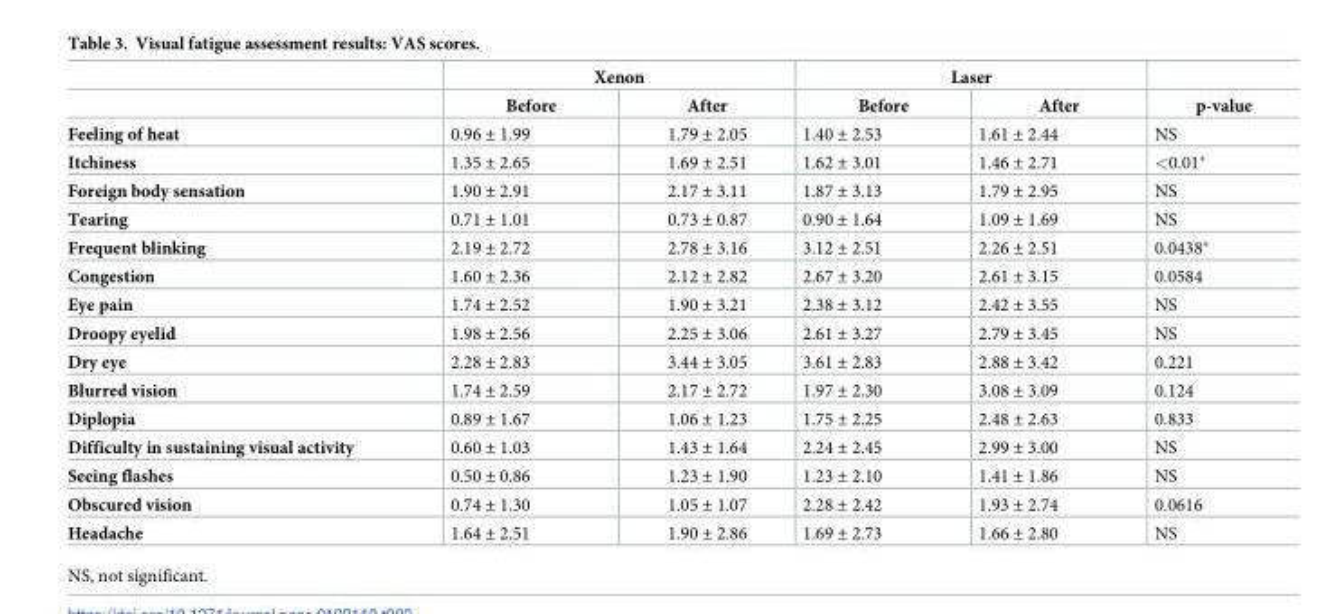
<table><thead><tr><td rowspan="2"></td><td colspan="2">Xenon</td><td colspan="2">Laser</td><td rowspan="2">p-value</td></tr><tr><td>Before</td><td>After</td><td>Before</td><td>After</td></tr></thead><tbody><tr><td>Feeling of heat</td><td>0.96 ± 1.99</td><td>1.79 ± 2.05</td><td>1.40 ± 2.53</td><td>1.61 ± 2.44</td><td>NS</td></tr><tr><td>Itchiness</td><td>1.35 ± 2.65</td><td>1.69 ± 2.51</td><td>1.62 ± 3.01</td><td>1.46 ± 2.71</td><td>&lt;0.01*</td></tr><tr><td>Foreign body sensation</td><td>1.90 ± 2.91</td><td>2.17 ± 3.11</td><td>1.87 ± 3.13</td><td>1.79 ± 2.95</td><td>NS</td></tr><tr><td>Tearing</td><td>0.71 ± 1.01</td><td>0.73 ± 0.87</td><td>0.90 ± 1.64</td><td>1.09 ± 1.69</td><td>NS</td></tr><tr><td>Frequent blinking</td><td>2.19 ± 2.72</td><td>2.78 ± 3.16</td><td>3.12 ± 2.51</td><td>2.26 ± 2.51</td><td>0.0438*</td></tr><tr><td>Congestion</td><td>1.60 ± 2.36</td><td>2.12 ± 2.82</td><td>2.67 ± 3.20</td><td>2.61 ± 3.15</td><td>0.0584</td></tr><tr><td>Eye pain</td><td>1.74 ± 2.52</td><td>1.90 ± 3.21</td><td>2.38 ± 3.12</td><td>2.42 ± 3.55</td><td>NS</td></tr><tr><td>Droopy eyelid</td><td>1.98 ± 2.56</td><td>2.25 ± 3.06</td><td>2.61 ± 3.27</td><td>2.79 ± 3.45</td><td>NS</td></tr><tr><td>Dry eye</td><td>2.28 ± 2.83</td><td>3.44 ± 3.05</td><td>3.61 ± 2.83</td><td>2.88 ± 3.42</td><td>0.221</td></tr><tr><td>Blurred vision</td><td>1.74 ± 2.59</td><td>2.17 ± 2.72</td><td>1.97 ± 2.30</td><td>3.08 ± 3.09</td><td>0.124</td></tr><tr><td>Diplopia</td><td>0.89 ± 1.67</td><td>1.06 ± 1.23</td><td>1.75 ± 2.25</td><td>2.48 ± 2.63</td><td>0.833</td></tr><tr><td>Difficulty in sustaining visual activity</td><td>0.60 ± 1.03</td><td>1.43 ± 1.64</td><td>2.24 ± 2.45</td><td>2.99 ± 3.00</td><td>NS</td></tr><tr><td>Seeing flashes</td><td>0.50 ± 0.86</td><td>1.23 ± 1.90</td><td>1.23 ± 2.10</td><td>1.41 ± 1.86</td><td>NS</td></tr><tr><td>Obscured vision</td><td>0.74 ± 1.30</td><td>1.05 ± 1.07</td><td>2.28 ± 2.42</td><td>1.93 ± 2.74</td><td>0.0616</td></tr><tr><td>Headache</td><td>1.64 ± 2.51</td><td>1.90 ± 2.86</td><td>1.69 ± 2.73</td><td>1.66 ± 2.80</td><td>NS</td></tr></tbody></table>